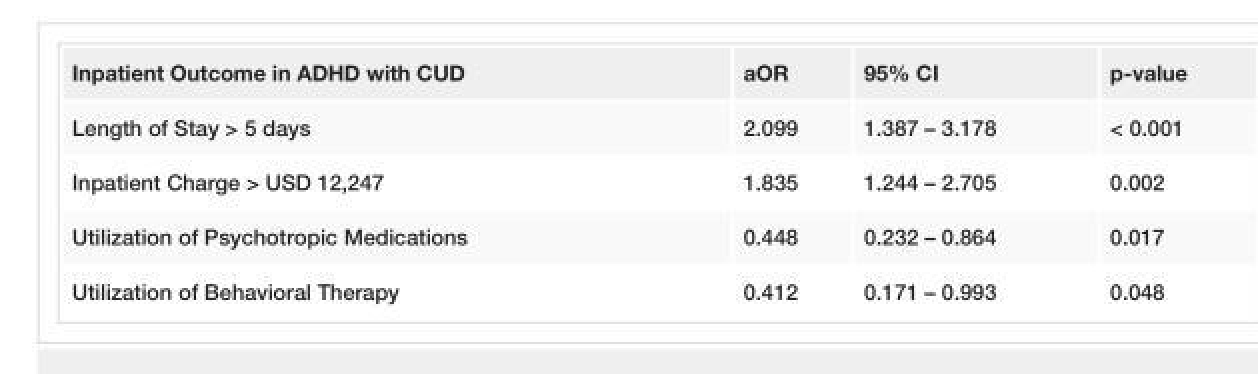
<table><tbody><tr><td>Inpatient Outcome in ADHD with CUD</td><td>aOR</td><td>95% CI</td><td>p-value</td></tr><tr><td>Length of Stay &gt; 5 days</td><td>2.099</td><td>1.387 – 3.178</td><td>&lt; 0.001</td></tr><tr><td>Inpatient Charge &gt; USD 12,247</td><td>1.835</td><td>1.244 – 2.705</td><td>0.002</td></tr><tr><td>Utilization of Psychotropic Medications</td><td>0.448</td><td>0.232 – 0.864</td><td>0.017</td></tr><tr><td>Utilization of Behavioral Therapy</td><td>0.412</td><td>0.171 – 0.993</td><td>0.048</td></tr></tbody></table>